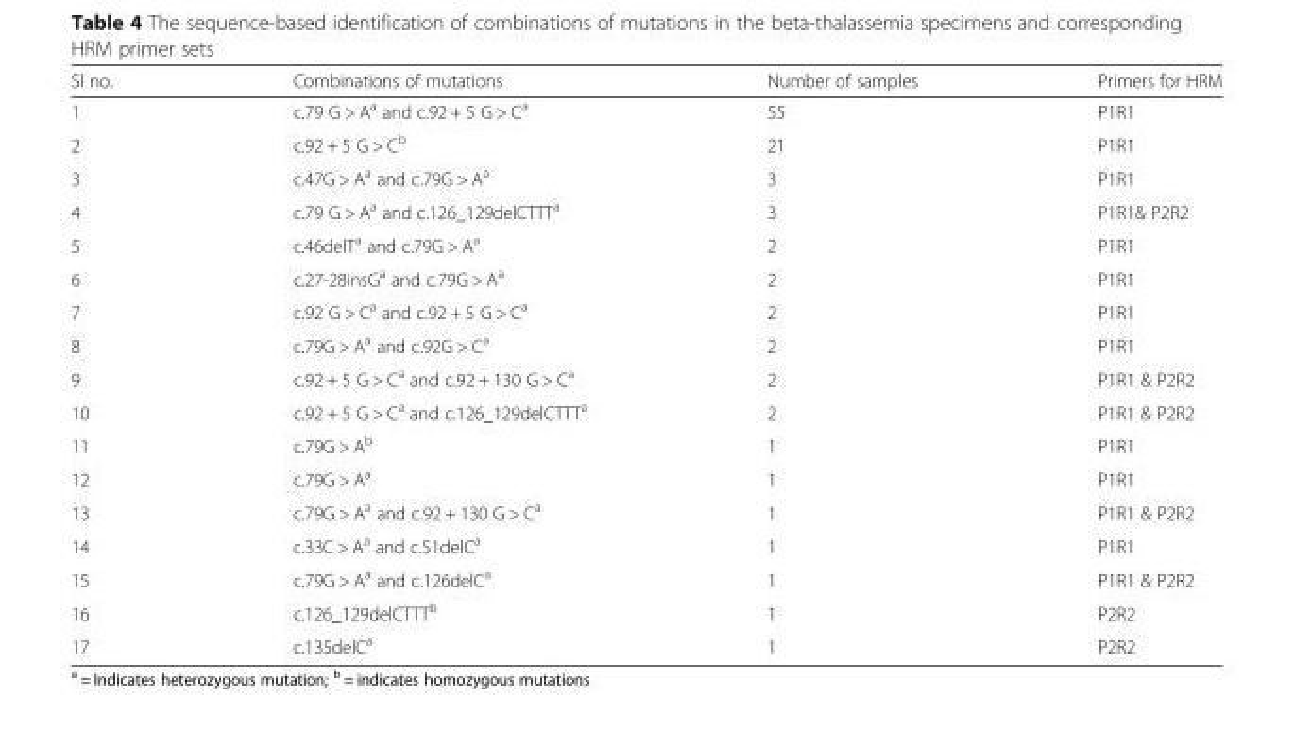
<table><thead><tr><td>Sl no.</td><td>Combinations of mutations</td><td>Number of samples</td><td>Primers for HRM</td></tr></thead><tbody><tr><td>1</td><td>c.79 G &gt; A<sup>a</sup> and c.92 + 5 G &gt; C<sup>a</sup></td><td>55</td><td>P1R1</td></tr><tr><td>2</td><td>c.92 + 5 G &gt; C<sup>b</sup></td><td>21</td><td>P1R1</td></tr><tr><td>3</td><td>c.47G &gt; A<sup>a</sup> and c.79G &gt; A<sup>a</sup></td><td>3</td><td>P1R1</td></tr><tr><td>4</td><td>c.79 G &gt; A<sup>a</sup> and c.126_129delCTTT<sup>a</sup></td><td>3</td><td>P1R1&amp; P2R2</td></tr><tr><td>5</td><td>c.46delT<sup>a</sup> and c.79G &gt; A<sup>a</sup></td><td>2</td><td>P1R1</td></tr><tr><td>6</td><td>c.27-28insG<sup>a</sup> and c.79G &gt; A<sup>a</sup></td><td>2</td><td>P1R1</td></tr><tr><td>7</td><td>c.92 G &gt; C<sup>a</sup> and c.92 + 5 G &gt; C<sup>a</sup></td><td>2</td><td>P1R1</td></tr><tr><td>8</td><td>c.79G &gt; A<sup>a</sup> and c.92G &gt; C<sup>a</sup></td><td>2</td><td>P1R1</td></tr><tr><td>9</td><td>c.92 + 5 G &gt; C<sup>a</sup> and c.92 + 130 G &gt; C<sup>a</sup></td><td>2</td><td>P1R1 &amp; P2R2</td></tr><tr><td>10</td><td>c.92 + 5 G &gt; C<sup>a</sup> and c.126_129delCTTT<sup>a</sup></td><td>2</td><td>P1R1 &amp; P2R2</td></tr><tr><td>11</td><td>c.79G &gt; A<sup>b</sup></td><td>1</td><td>P1R1</td></tr><tr><td>12</td><td>c.79G &gt; A<sup>a</sup></td><td>1</td><td>P1R1</td></tr><tr><td>13</td><td>c.79G &gt; A<sup>a</sup> and c.92 + 130 G &gt; C<sup>a</sup></td><td>1</td><td>P1R1 &amp; P2R2</td></tr><tr><td>14</td><td>c.33C &gt; A<sup>a</sup> and c.51delC<sup>a</sup></td><td>1</td><td>P1R1</td></tr><tr><td>15</td><td>c.79G &gt; A<sup>a</sup> and c.126delC<sup>a</sup></td><td>1</td><td>P1R1 &amp; P2R2</td></tr><tr><td>16</td><td>c.126_129delCTTT<sup>b</sup></td><td>1</td><td>P2R2</td></tr><tr><td>17</td><td>c.135delC<sup>a</sup></td><td>1</td><td>P2R2</td></tr></tbody></table>